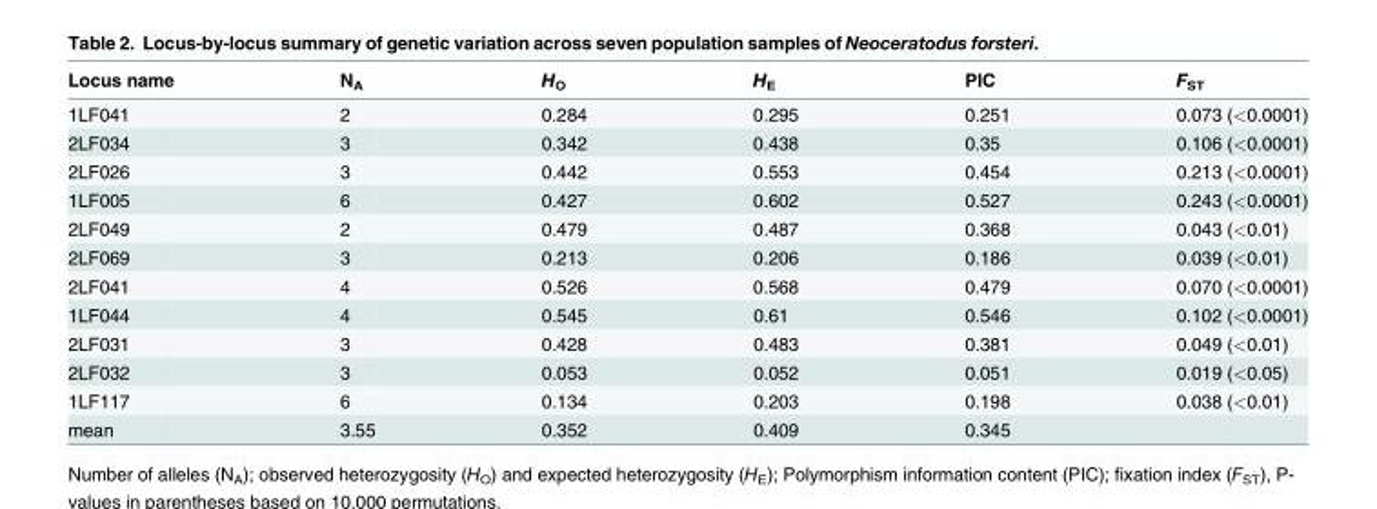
<table><thead><tr><td>Locus name</td><td>N<sub>A</sub></td><td>H<sub>O</sub></td><td>H<sub>E</sub></td><td>PIC</td><td>F<sub>ST</sub></td></tr></thead><tbody><tr><td>1LF041</td><td>2</td><td>0.284</td><td>0.295</td><td>0.251</td><td>0.073 (&lt;0.0001)</td></tr><tr><td>2LF034</td><td>3</td><td>0.342</td><td>0.438</td><td>0.35</td><td>0.106 (&lt;0.0001)</td></tr><tr><td>2LF026</td><td>3</td><td>0.442</td><td>0.553</td><td>0.454</td><td>0.213 (&lt;0.0001)</td></tr><tr><td>1LF005</td><td>6</td><td>0.427</td><td>0.602</td><td>0.527</td><td>0.243 (&lt;0.0001)</td></tr><tr><td>2LF049</td><td>2</td><td>0.479</td><td>0.487</td><td>0.368</td><td>0.043 (&lt;0.01)</td></tr><tr><td>2LF069</td><td>3</td><td>0.213</td><td>0.206</td><td>0.186</td><td>0.039 (&lt;0.01)</td></tr><tr><td>2LF041</td><td>4</td><td>0.526</td><td>0.568</td><td>0.479</td><td>0.070 (&lt;0.0001)</td></tr><tr><td>1LF044</td><td>4</td><td>0.545</td><td>0.61</td><td>0.546</td><td>0.102 (&lt;0.0001)</td></tr><tr><td>2LF031</td><td>3</td><td>0.428</td><td>0.483</td><td>0.381</td><td>0.049 (&lt;0.01)</td></tr><tr><td>2LF032</td><td>3</td><td>0.053</td><td>0.052</td><td>0.051</td><td>0.019 (&lt;0.05)</td></tr><tr><td>1LF117</td><td>6</td><td>0.134</td><td>0.203</td><td>0.198</td><td>0.038 (&lt;0.01)</td></tr><tr><td>mean</td><td>3.55</td><td>0.352</td><td>0.409</td><td>0.345</td><td></td></tr></tbody></table>